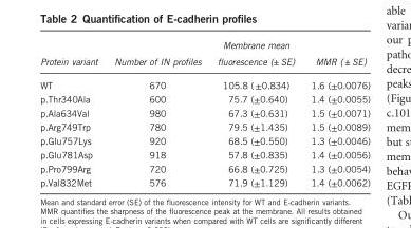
<table><thead><tr><td>Protein variant</td><td>Number of IN profiles</td><td>Membrane mean fluorescence (± SE)</td><td>MMR ( ± SE)</td></tr></thead><tbody><tr><td>WT</td><td>670</td><td>105.8 ( ±0.834)</td><td>1.6 (±0.0076)</td></tr><tr><td>p.Thr340Ala</td><td>600</td><td>75.7 (±0.640)</td><td>1.4 (±0.0055)</td></tr><tr><td>p.Ala634Val</td><td>980</td><td>67.3 (±0.631)</td><td>1.5 (±0.0071)</td></tr><tr><td>p.Arg749Trp</td><td>780</td><td>79.5 (±1.435)</td><td>1.5 (±0.0089)</td></tr><tr><td>p.Glu757Lys</td><td>920</td><td>68.5 (±0.550)</td><td>1.3 (±0.0046)</td></tr><tr><td>p.Glu781Asp</td><td>918</td><td>57.8 (±0.835)</td><td>1.4 (±0.0056)</td></tr><tr><td>p.Pro799Arg</td><td>720</td><td>66.8 (±0.725)</td><td>1.3 (±0.0054)</td></tr><tr><td>p.Val832Met</td><td>576</td><td>71.9 (±1.129)</td><td>1.4 (±0.0062)</td></tr></tbody></table>